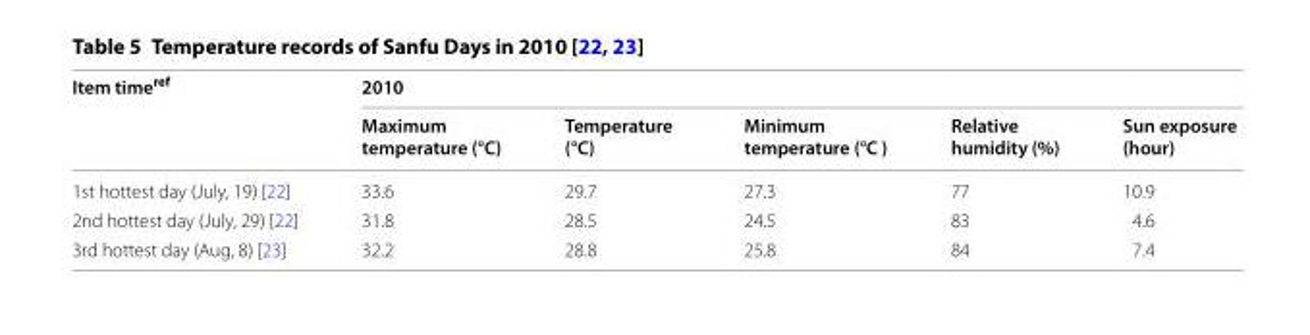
<table><thead><tr><td rowspan="2">Item time<sup>ref</sup></td><td colspan="5">2010</td></tr><tr><td>Maximum temperature (°C)</td><td>Temperature (°C)</td><td>Minimum temperature (°C )</td><td>Relative humidity (%)</td><td>Sun exposure (hour)</td></tr></thead><tbody><tr><td>1st hottest day (July, 19) [22]</td><td>33.6</td><td>29.7</td><td>27.3</td><td>77</td><td>10.9</td></tr><tr><td>2nd hottest day (July, 29) [22]</td><td>31.8</td><td>28.5</td><td>24.5</td><td>83</td><td>4.6</td></tr><tr><td>3rd hottest day (Aug, 8) [23]</td><td>32.2</td><td>28.8</td><td>25.8</td><td>84</td><td>7.4</td></tr></tbody></table>